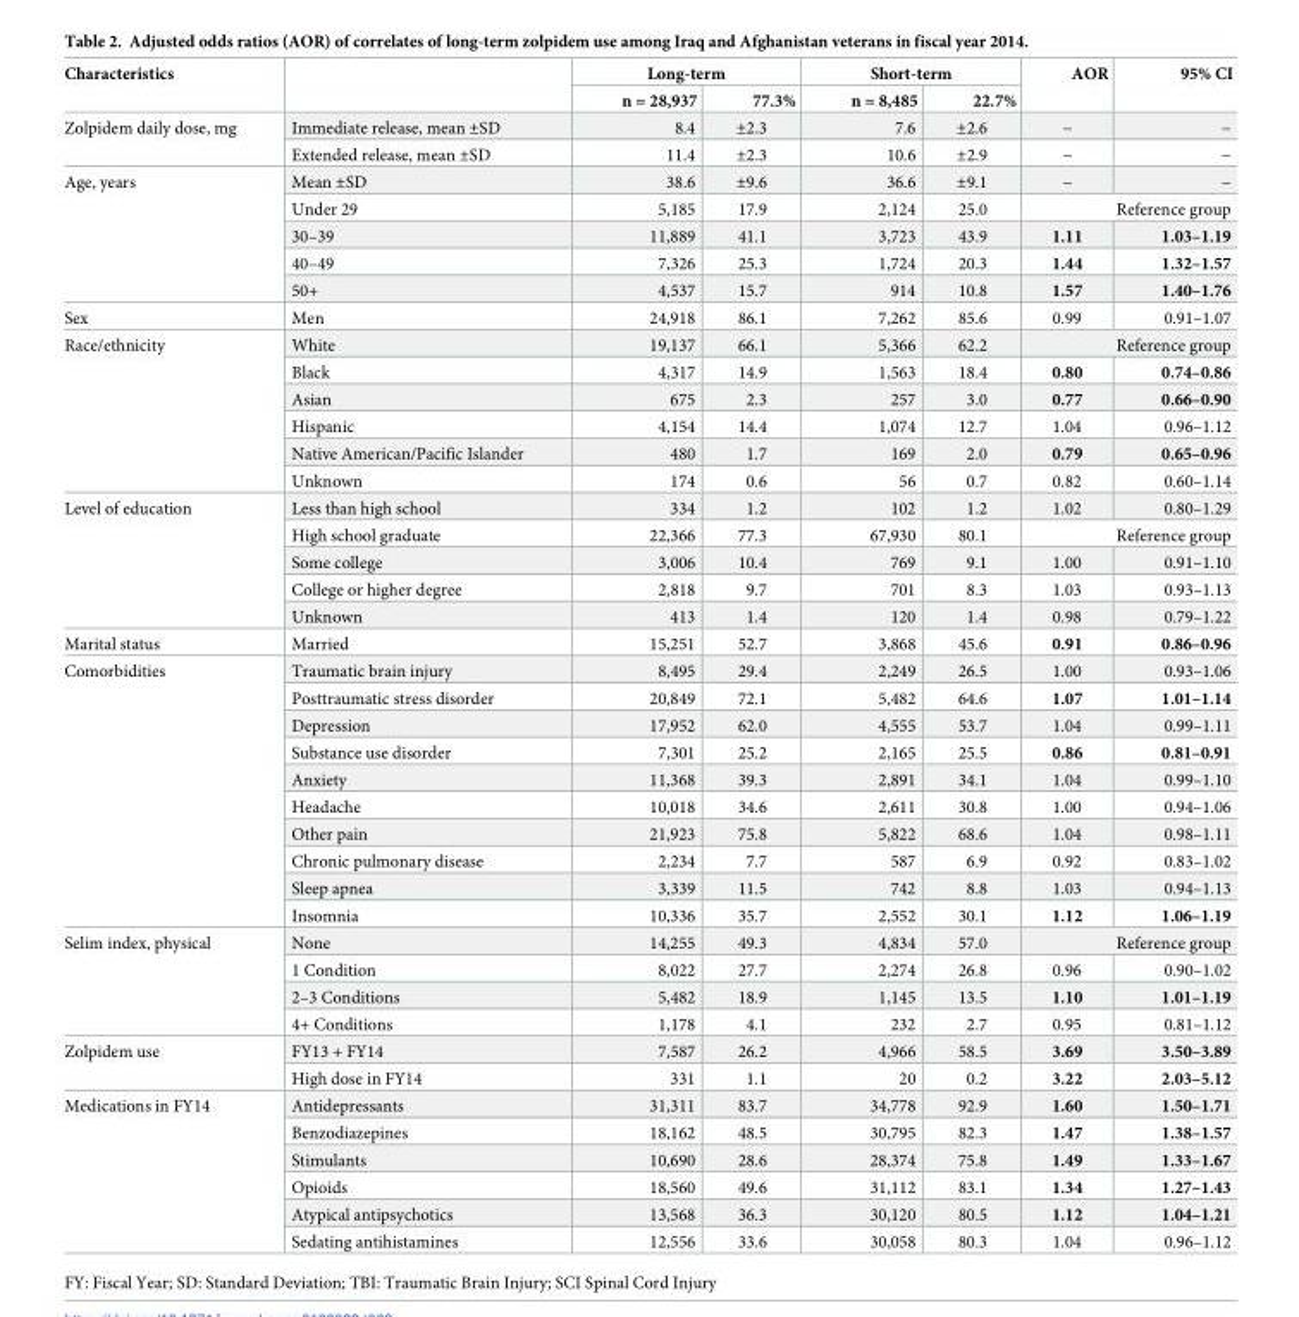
<table><thead><tr><td rowspan="2">Characteristics</td><td rowspan="2"></td><td colspan="2">Long-term</td><td colspan="2">Short-term</td><td rowspan="2">AOR</td><td rowspan="2">95% CI</td></tr><tr><td>n = 28,937</td><td>77.3%</td><td>n = 8,485</td><td>22.7%</td></tr></thead><tbody><tr><td rowspan="2">Zolpidem daily dose, mg</td><td>Immediate release, mean ±SD</td><td>8.4</td><td>±2.3</td><td>7.6</td><td>±2.6</td><td>−</td><td>−</td></tr><tr><td>Extended release, mean ±SD</td><td>11.4</td><td>±2.3</td><td>10.6</td><td>±2.9</td><td>−</td><td>−</td></tr><tr><td rowspan="5">Age, years</td><td>Mean ±SD</td><td>38.6</td><td>±9.6</td><td>36.6</td><td>±9.1</td><td>−</td><td>−</td></tr><tr><td>Under 29</td><td>5,185</td><td>17.9</td><td>2,124</td><td>25.0</td><td colspan="2">Reference group</td></tr><tr><td>30–39</td><td>11,889</td><td>41.1</td><td>3,723</td><td>43.9</td><td>1.11</td><td>1.03–1.19</td></tr><tr><td>40–49</td><td>7,326</td><td>25.3</td><td>1,724</td><td>20.3</td><td>1.44</td><td>1.32–1.57</td></tr><tr><td>50+</td><td>4,537</td><td>15.7</td><td>914</td><td>10.8</td><td>1.57</td><td>1.40–1.76</td></tr><tr><td>Sex</td><td>Men</td><td>24,918</td><td>86.1</td><td>7,262</td><td>85.6</td><td>0.99</td><td>0.91–1.07</td></tr><tr><td rowspan="6">Race/ethnicity</td><td>White</td><td>19,137</td><td>66.1</td><td>5,366</td><td>62.2</td><td colspan="2">Reference group</td></tr><tr><td>Black</td><td>4,317</td><td>14.9</td><td>1,563</td><td>18.4</td><td>0.80</td><td>0.74–0.86</td></tr><tr><td>Asian</td><td>675</td><td>2.3</td><td>257</td><td>3.0</td><td>0.77</td><td>0.66–0.90</td></tr><tr><td>Hispanic</td><td>4,154</td><td>14.4</td><td>1,074</td><td>12.7</td><td>1.04</td><td>0.96–1.12</td></tr><tr><td>Native American/Pacific Islander</td><td>480</td><td>1.7</td><td>169</td><td>2.0</td><td>0.79</td><td>0.65–0.96</td></tr><tr><td>Unknown</td><td>174</td><td>0.6</td><td>56</td><td>0.7</td><td>0.82</td><td>0.60–1.14</td></tr><tr><td rowspan="5">Level of education</td><td>Less than high school</td><td>334</td><td>1.2</td><td>102</td><td>1.2</td><td>1.02</td><td>0.80–1.29</td></tr><tr><td>High school graduate</td><td>22,366</td><td>77.3</td><td>67,930</td><td>80.1</td><td colspan="2">Reference group</td></tr><tr><td>Some college</td><td>3,006</td><td>10.4</td><td>769</td><td>9.1</td><td>1.00</td><td>0.91–1.10</td></tr><tr><td>College or higher degree</td><td>2,818</td><td>9.7</td><td>701</td><td>8.3</td><td>1.03</td><td>0.93–1.13</td></tr><tr><td>Unknown</td><td>413</td><td>1.4</td><td>120</td><td>1.4</td><td>0.98</td><td>0.79–1.22</td></tr><tr><td>Marital status</td><td>Married</td><td>15,251</td><td>52.7</td><td>3,868</td><td>45.6</td><td>0.91</td><td>0.86–0.96</td></tr><tr><td rowspan="10">Comorbidities</td><td>Traumatic brain injury</td><td>8,495</td><td>29.4</td><td>2,249</td><td>26.5</td><td>1.00</td><td>0.93–1.06</td></tr><tr><td>Posttraumatic stress disorder</td><td>20,849</td><td>72.1</td><td>5,482</td><td>64.6</td><td>1.07</td><td>1.01–1.14</td></tr><tr><td>Depression</td><td>17,952</td><td>62.0</td><td>4,555</td><td>53.7</td><td>1.04</td><td>0.99–1.11</td></tr><tr><td>Substance use disorder</td><td>7,301</td><td>25.2</td><td>2,165</td><td>25.5</td><td>0.86</td><td>0.81–0.91</td></tr><tr><td>Anxiety</td><td>11,368</td><td>39.3</td><td>2,891</td><td>34.1</td><td>1.04</td><td>0.99–1.10</td></tr><tr><td>Headache</td><td>10,018</td><td>34.6</td><td>2,611</td><td>30.8</td><td>1.00</td><td>0.94–1.06</td></tr><tr><td>Other pain</td><td>21,923</td><td>75.8</td><td>5,822</td><td>68.6</td><td>1.04</td><td>0.98–1.11</td></tr><tr><td>Chronic pulmonary disease</td><td>2,234</td><td>7.7</td><td>587</td><td>6.9</td><td>0.92</td><td>0.83–1.02</td></tr><tr><td>Sleep apnea</td><td>3,339</td><td>11.5</td><td>742</td><td>8.8</td><td>1.03</td><td>0.94–1.13</td></tr><tr><td>Insomnia</td><td>10,336</td><td>35.7</td><td>2,552</td><td>30.1</td><td>1.12</td><td>1.06–1.19</td></tr><tr><td rowspan="4">Selim index, physical</td><td>None</td><td>14,255</td><td>49.3</td><td>4,834</td><td>57.0</td><td colspan="2">Reference group</td></tr><tr><td>1 Condition</td><td>8,022</td><td>27.7</td><td>2,274</td><td>26.8</td><td>0.96</td><td>0.90–1.02</td></tr><tr><td>2–3 Conditions</td><td>5,482</td><td>18.9</td><td>1,145</td><td>13.5</td><td>1.10</td><td>1.01–1.19</td></tr><tr><td>4+ Conditions</td><td>1,178</td><td>4.1</td><td>232</td><td>2.7</td><td>0.95</td><td>0.81–1.12</td></tr><tr><td rowspan="2">Zolpidem use</td><td>FY13 + FY14</td><td>7,587</td><td>26.2</td><td>4,966</td><td>58.5</td><td>3.69</td><td>3.50–3.89</td></tr><tr><td>High dose in FY14</td><td>331</td><td>1.1</td><td>20</td><td>0.2</td><td>3.22</td><td>2.03–5.12</td></tr><tr><td rowspan="6">Medications in FY14</td><td>Antidepressants</td><td>31,311</td><td>83.7</td><td>34,778</td><td>92.9</td><td>1.60</td><td>1.50–1.71</td></tr><tr><td>Benzodiazepines</td><td>18,162</td><td>48.5</td><td>30,795</td><td>82.3</td><td>1.47</td><td>1.38–1.57</td></tr><tr><td>Stimulants</td><td>10,690</td><td>28.6</td><td>28,374</td><td>75.8</td><td>1.49</td><td>1.33–1.67</td></tr><tr><td>Opioids</td><td>18,560</td><td>49.6</td><td>31,112</td><td>83.1</td><td>1.34</td><td>1.27–1.43</td></tr><tr><td>Atypical antipsychotics</td><td>13,568</td><td>36.3</td><td>30,120</td><td>80.5</td><td>1.12</td><td>1.04–1.21</td></tr><tr><td>Sedating antihistamines</td><td>12,556</td><td>33.6</td><td>30,058</td><td>80.3</td><td>1.04</td><td>0.96–1.12</td></tr></tbody></table>